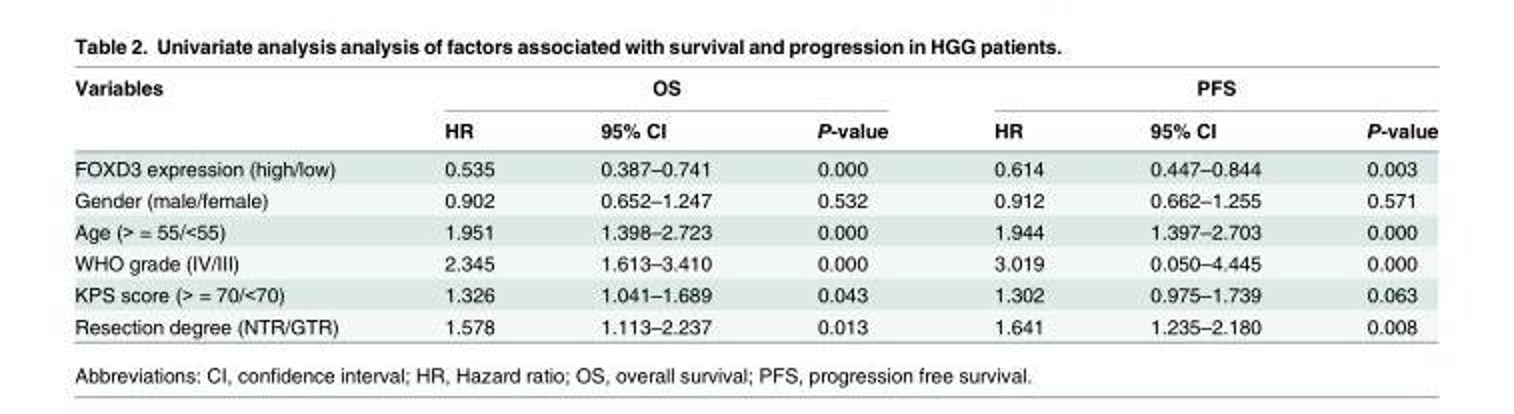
<table><thead><tr><td rowspan="2">Variables</td><td colspan="3">OS</td><td colspan="3">PFS</td></tr><tr><td>HR</td><td>95% CI</td><td>P-value</td><td>HR</td><td>95% CI</td><td>P-value</td></tr></thead><tbody><tr><td>FOXD3 expression (high/low)</td><td>0.535</td><td>0.387–0.741</td><td>0.000</td><td>0.614</td><td>0.447–0.844</td><td>0.003</td></tr><tr><td>Gender (male/female)</td><td>0.902</td><td>0.652–1.247</td><td>0.532</td><td>0.912</td><td>0.662–1.255</td><td>0.571</td></tr><tr><td>Age (&gt; = 55/&lt;55)</td><td>1.951</td><td>1.398–2.723</td><td>0.000</td><td>1.944</td><td>1.397–2.703</td><td>0.000</td></tr><tr><td>WHO grade (IV/III)</td><td>2.345</td><td>1.613–3.410</td><td>0.000</td><td>3.019</td><td>0.050–4.445</td><td>0.000</td></tr><tr><td>KPS score (&gt; = 70/&lt;70)</td><td>1.326</td><td>1.041–1.689</td><td>0.043</td><td>1.302</td><td>0.975–1.739</td><td>0.063</td></tr><tr><td>Resection degree (NTR/GTR)</td><td>1.578</td><td>1.113–2.237</td><td>0.013</td><td>1.641</td><td>1.235–2.180</td><td>0.008</td></tr></tbody></table>